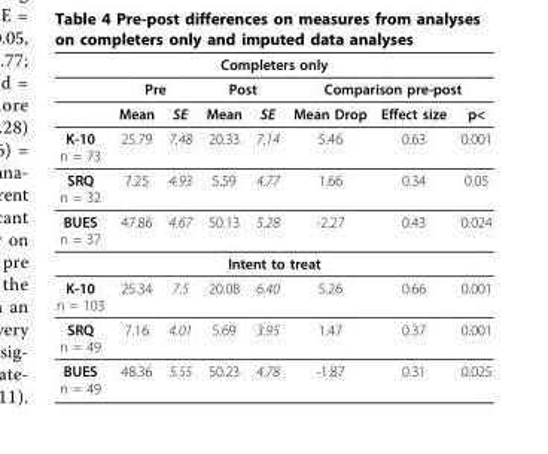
<table><thead><tr><td colspan="8">Completers only</td></tr><tr><td rowspan="2"></td><td colspan="2">Pre</td><td colspan="2">Post</td><td colspan="3">Comparison pre-post</td></tr><tr><td>Mean</td><td>SE</td><td>Mean</td><td>SE</td><td>Mean Drop</td><td>Effect size</td><td>p&lt;</td></tr></thead><tbody><tr><td>K-10 n = 73</td><td>25.79</td><td>7.48</td><td>20.33</td><td>7.14</td><td>5.46</td><td>0.63</td><td>0.001</td></tr><tr><td>SRQ n = 32</td><td>7.25</td><td>4.93</td><td>5.59</td><td>4.77</td><td>1.66</td><td>0.34</td><td>0.05</td></tr><tr><td>BUES n = 37</td><td>47.86</td><td>4.67</td><td>50.13</td><td>5.28</td><td>-2.27</td><td>0.43</td><td>0.024</td></tr><tr><td colspan="8">Intent to treat</td></tr><tr><td>K-10 n = 103</td><td>25.34</td><td>7.5</td><td>20.08</td><td>6.40</td><td>5.26</td><td>0.66</td><td>0.001</td></tr><tr><td>SRQ n = 49</td><td>7.16</td><td>4.01</td><td>5.69</td><td>3.95</td><td>1.47</td><td>0.37</td><td>0.001</td></tr><tr><td>BUES n = 49</td><td>48.36</td><td>5.55</td><td>50.23</td><td>4.78</td><td>-1.87</td><td>0.31</td><td>0.025</td></tr></tbody></table>